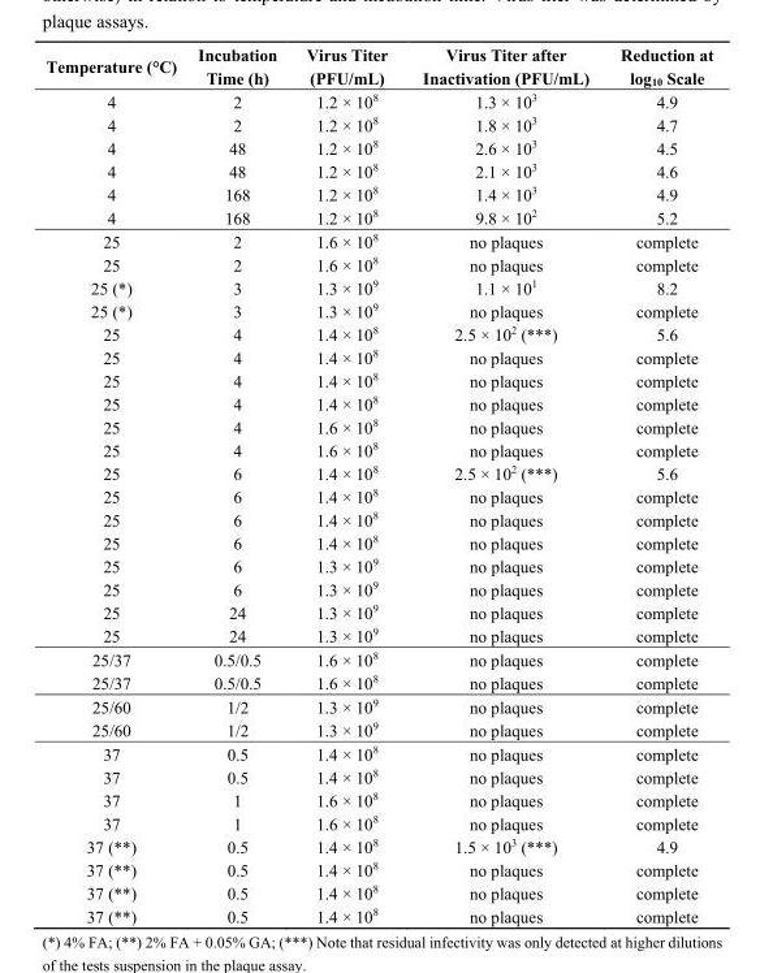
<table><thead><tr><td>Temperature (°C)</td><td>Incubation Time (h)</td><td>Virus Titer (PFU/mL)</td><td>Virus Titer after Inactivation (PFU/mL)</td><td>Reduction at log<sub>10</sub> Scale</td></tr></thead><tbody><tr><td>4</td><td>2</td><td>1.2 × 10<sup>8</sup></td><td>1.3 × 10<sup>3</sup></td><td>4.9</td></tr><tr><td>4</td><td>2</td><td>1.2 × 10<sup>8</sup></td><td>1.8 × 10<sup>3</sup></td><td>4.7</td></tr><tr><td>4</td><td>48</td><td>1.2 × 10<sup>8</sup></td><td>2.6 × 10<sup>3</sup></td><td>4.5</td></tr><tr><td>4</td><td>48</td><td>1.2 × 10<sup>8</sup></td><td>2.1 × 10<sup>3</sup></td><td>4.6</td></tr><tr><td>4</td><td>168</td><td>1.2 × 10<sup>8</sup></td><td>1.4 × 10<sup>3</sup></td><td>4.9</td></tr><tr><td>4</td><td>168</td><td>1.2 × 10<sup>8</sup></td><td>9.8 × 10<sup>2</sup></td><td>5.2</td></tr><tr><td>25</td><td>2</td><td>1.6 × 10<sup>8</sup></td><td>no plaques</td><td>complete</td></tr><tr><td>25</td><td>2</td><td>1.6 × 10<sup>8</sup></td><td>no plaques</td><td>complete</td></tr><tr><td>25 (*)</td><td>3</td><td>1.3 × 10<sup>9</sup></td><td>1.1 × 10<sup>1</sup></td><td>8.2</td></tr><tr><td>25 (*)</td><td>3</td><td>1.3 × 10<sup>9</sup></td><td>no plaques</td><td>complete</td></tr><tr><td>25</td><td>4</td><td>1.4 × 10<sup>8</sup></td><td>2.5 × 10<sup>2</sup> (***)</td><td>5.6</td></tr><tr><td>25</td><td>4</td><td>1.4 × 10<sup>8</sup></td><td>no plaques</td><td>complete</td></tr><tr><td>25</td><td>4</td><td>1.4 × 10<sup>8</sup></td><td>no plaques</td><td>complete</td></tr><tr><td>25</td><td>4</td><td>1.4 × 10<sup>8</sup></td><td>no plaques</td><td>complete</td></tr><tr><td>25</td><td>4</td><td>1.6 × 10<sup>8</sup></td><td>no plaques</td><td>complete</td></tr><tr><td>25</td><td>4</td><td>1.6 × 10<sup>8</sup></td><td>no plaques</td><td>complete</td></tr><tr><td>25</td><td>6</td><td>1.4 × 10<sup>8</sup></td><td>2.5 × 10<sup>2</sup> (***)</td><td>5.6</td></tr><tr><td>25</td><td>6</td><td>1.4 × 10<sup>8</sup></td><td>no plaques</td><td>complete</td></tr><tr><td>25</td><td>6</td><td>1.4 × 10<sup>8</sup></td><td>no plaques</td><td>complete</td></tr><tr><td>25</td><td>6</td><td>1.4 × 10<sup>8</sup></td><td>no plaques</td><td>complete</td></tr><tr><td>25</td><td>6</td><td>1.3 × 10<sup>9</sup></td><td>no plaques</td><td>complete</td></tr><tr><td>25</td><td>6</td><td>1.3 × 10<sup>9</sup></td><td>no plaques</td><td>complete</td></tr><tr><td>25</td><td>24</td><td>1.3 × 10<sup>9</sup></td><td>no plaques</td><td>complete</td></tr><tr><td>25</td><td>24</td><td>1.3 × 10<sup>9</sup></td><td>no plaques</td><td>complete</td></tr><tr><td>25/37</td><td>0.5/0.5</td><td>1.6 × 10<sup>8</sup></td><td>no plaques</td><td>complete</td></tr><tr><td>25/37</td><td>0.5/0.5</td><td>1.6 × 10<sup>8</sup></td><td>no plaques</td><td>complete</td></tr><tr><td>25/60</td><td>1/2</td><td>1.3 × 10<sup>9</sup></td><td>no plaques</td><td>complete</td></tr><tr><td>25/60</td><td>1/2</td><td>1.3 × 10<sup>9</sup></td><td>no plaques</td><td>complete</td></tr><tr><td>37</td><td>0.5</td><td>1.4 × 10<sup>8</sup></td><td>no plaques</td><td>complete</td></tr><tr><td>37</td><td>0.5</td><td>1.4 × 10<sup>8</sup></td><td>no plaques</td><td>complete</td></tr><tr><td>37</td><td>1</td><td>1.6 × 10<sup>8</sup></td><td>no plaques</td><td>complete</td></tr><tr><td>37</td><td>1</td><td>1.6 × 10<sup>8</sup></td><td>no plaques</td><td>complete</td></tr><tr><td>37 (**)</td><td>0.5</td><td>1.4 × 10<sup>8</sup></td><td>1.5 × 10<sup>3</sup> (***)</td><td>4.9</td></tr><tr><td>37 (**)</td><td>0.5</td><td>1.4 × 10<sup>8</sup></td><td>no plaques</td><td>complete</td></tr><tr><td>37 (**)</td><td>0.5</td><td>1.4 × 10<sup>8</sup></td><td>no plaques</td><td>complete</td></tr><tr><td>37 (**)</td><td>0.5</td><td>1.4 × 10<sup>8</sup></td><td>no plaques</td><td>complete</td></tr></tbody></table>